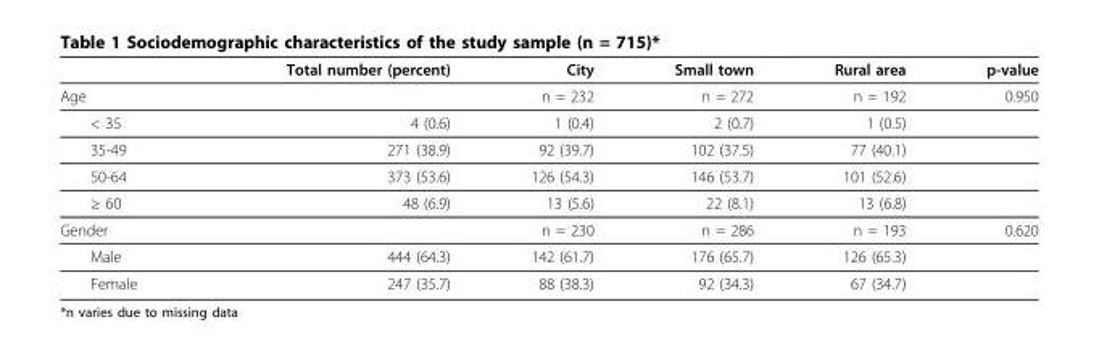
<table><thead><tr><td></td><td>Total number (percent)</td><td>City</td><td>Small town</td><td>Rural area</td><td>p-value</td></tr></thead><tbody><tr><td>Age</td><td></td><td>n = 232</td><td>n = 272</td><td>n = 192</td><td>0.950</td></tr><tr><td>&lt; 35</td><td>4 (0.6)</td><td>1 (0.4)</td><td>2 (0.7)</td><td>1 (0.5)</td><td></td></tr><tr><td>35-49</td><td>271 (38.9)</td><td>92 (39.7)</td><td>102 (37.5)</td><td>77 (40.1)</td><td></td></tr><tr><td>50-64</td><td>373 (53.6)</td><td>126 (54.3)</td><td>146 (53.7)</td><td>101 (52.6)</td><td></td></tr><tr><td>≥ 60</td><td>48 (6.9)</td><td>13 (5.6)</td><td>22 (8.1)</td><td>13 (6.8)</td><td></td></tr><tr><td>Gender</td><td></td><td>n = 230</td><td>n = 286</td><td>n = 193</td><td>0.620</td></tr><tr><td>Male</td><td>444 (64.3)</td><td>142 (61.7)</td><td>176 (65.7)</td><td>126 (65.3)</td><td></td></tr><tr><td>Female</td><td>247 (35.7)</td><td>88 (38.3)</td><td>92 (34.3)</td><td>67 (34.7)</td><td></td></tr></tbody></table>